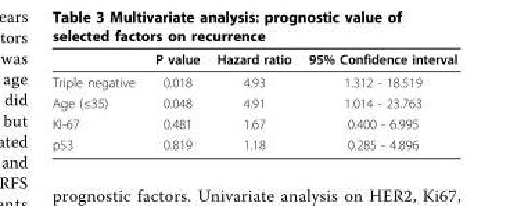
<table><thead><tr><td></td><td>P value</td><td>Hazard ratio</td><td>95% Confidence interval</td></tr></thead><tbody><tr><td>Triple negative</td><td>0.018</td><td>4.93</td><td>1.312 - 18.519</td></tr><tr><td>Age (≤35)</td><td>0.048</td><td>4.91</td><td>1.014 - 23.763</td></tr><tr><td>KI-67</td><td>0.481</td><td>1.67</td><td>0.400 - 6.995</td></tr><tr><td>p53</td><td>0.819</td><td>1.18</td><td>0.285 - 4.896</td></tr></tbody></table>